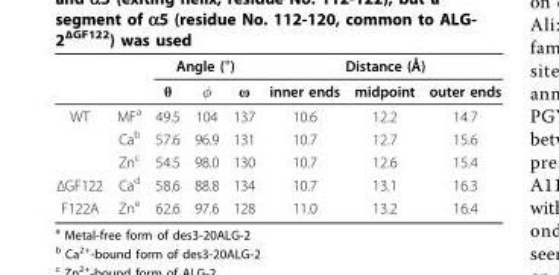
<table><thead><tr><td rowspan="2"></td><td rowspan="2"></td><td colspan="3">Angle (°)</td><td colspan="3">Distance (Å)</td></tr><tr><td>θ</td><td>φ</td><td>ω</td><td>inner ends</td><td>midpoint</td><td>outer ends</td></tr></thead><tbody><tr><td rowspan="3">WT</td><td>MF<sup>a</sup></td><td>49.5</td><td>104</td><td>137</td><td>10.6</td><td>12.2</td><td>14.7</td></tr><tr><td>Ca<sup>b</sup></td><td>57.6</td><td>96.9</td><td>131</td><td>10.7</td><td>12.7</td><td>15.6</td></tr><tr><td>Zn<sup>c</sup></td><td>54.5</td><td>98.0</td><td>130</td><td>10.7</td><td>12.6</td><td>15.4</td></tr><tr><td>ΔGF122</td><td>Ca<sup>d</sup></td><td>58.6</td><td>88.8</td><td>134</td><td>10.7</td><td>13.1</td><td>16.3</td></tr><tr><td>F122A</td><td>Zn<sup>e</sup></td><td>62.6</td><td>97.6</td><td>128</td><td>11.0</td><td>13.2</td><td>16.4</td></tr></tbody></table>